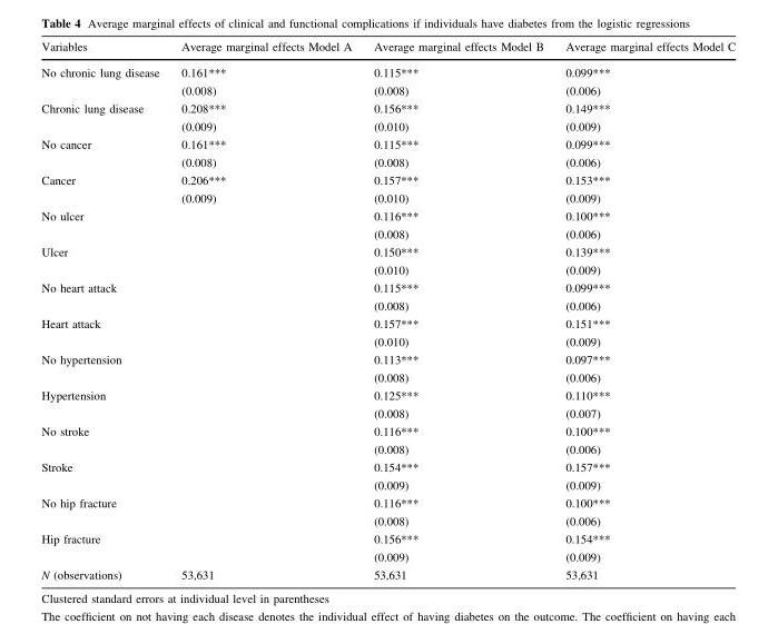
<table><thead><tr><td>Variables</td><td>Average marginal effects Model A</td><td>Average marginal effects Model B</td><td>Average marginal effects Model C</td></tr></thead><tbody><tr><td rowspan="2">No chronic lung disease</td><td>0.161***</td><td>0.115***</td><td>0.099***</td></tr><tr><td>(0.008)</td><td>(0.008)</td><td>(0.006)</td></tr><tr><td rowspan="2">Chronic lung disease</td><td>0.208***</td><td>0.156***</td><td>0.149***</td></tr><tr><td>(0.009)</td><td>(0.010)</td><td>(0.009)</td></tr><tr><td rowspan="2">No cancer</td><td>0.161***</td><td>0.115***</td><td>0.099***</td></tr><tr><td>(0.008)</td><td>(0.008)</td><td>(0.006)</td></tr><tr><td rowspan="2">Cancer</td><td>0.206***</td><td>0.157***</td><td>0.153***</td></tr><tr><td>(0.009)</td><td>(0.010)</td><td>(0.009)</td></tr><tr><td rowspan="2">No ulcer</td><td></td><td>0.116***</td><td>0.100***</td></tr><tr><td></td><td>(0.008)</td><td>(0.006)</td></tr><tr><td rowspan="2">Ulcer</td><td></td><td>0.150***</td><td>0.139***</td></tr><tr><td></td><td>(0.010)</td><td>(0.009)</td></tr><tr><td rowspan="2">No heart attack</td><td></td><td>0.115***</td><td>0.099***</td></tr><tr><td></td><td>(0.008)</td><td>(0.006)</td></tr><tr><td rowspan="2">Heart attack</td><td></td><td>0.157***</td><td>0.151***</td></tr><tr><td></td><td>(0.010)</td><td>(0.009)</td></tr><tr><td rowspan="2">No hypertension</td><td></td><td>0.113***</td><td>0.097***</td></tr><tr><td></td><td>(0.008)</td><td>(0.006)</td></tr><tr><td rowspan="2">Hypertension</td><td></td><td>0.125***</td><td>0.110***</td></tr><tr><td></td><td>(0.008)</td><td>(0.007)</td></tr><tr><td rowspan="2">No stroke</td><td></td><td>0.116***</td><td>0.100***</td></tr><tr><td></td><td>(0.008)</td><td>(0.006)</td></tr><tr><td rowspan="2">Stroke</td><td></td><td>0.154***</td><td>0.157***</td></tr><tr><td></td><td>(0.009)</td><td>(0.009)</td></tr><tr><td rowspan="2">No hip fracture</td><td></td><td>0.116***</td><td>0.100***</td></tr><tr><td></td><td>(0.008)</td><td>(0.006)</td></tr><tr><td rowspan="2">Hip fracture</td><td></td><td>0.156***</td><td>0.154***</td></tr><tr><td></td><td>(0.009)</td><td>(0.009)</td></tr><tr><td>N (observations)</td><td>53,631</td><td>53,631</td><td>53,631</td></tr></tbody></table>